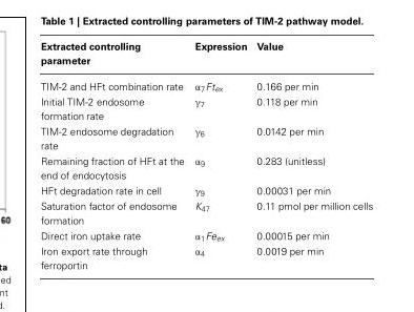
<table><thead><tr><td>Extracted controlling parameter</td><td>Expression</td><td>Value</td></tr></thead><tbody><tr><td>TIM-2 and HFt combination rate</td><td>α<sub>7</sub>Ft<sub>ex</sub></td><td>0.166 per min</td></tr><tr><td>Initial TIM-2 endosome formation rate</td><td>γ<sub>7</sub></td><td>0.118 per min</td></tr><tr><td>TIM-2 endosome degradation rate</td><td>γ<sub>6</sub></td><td>0.0142 per min</td></tr><tr><td>Remaining fraction of HFt at the end of endocytosis</td><td>α<sub>9</sub></td><td>0.283 (unitless)</td></tr><tr><td>HFt degradation rate in cell</td><td>γ<sub>9</sub></td><td>0.00031 per min</td></tr><tr><td>Saturation factor of endosome formation</td><td>K<sub>47</sub></td><td>0.11 pmol per million cells</td></tr><tr><td>Direct iron uptake rate</td><td>α<sub>1</sub>Fe<sub>ex</sub></td><td>0.00015 per min</td></tr><tr><td>Iron export rate through ferroportin</td><td>α<sub>4</sub></td><td>0.0019 per min</td></tr></tbody></table>